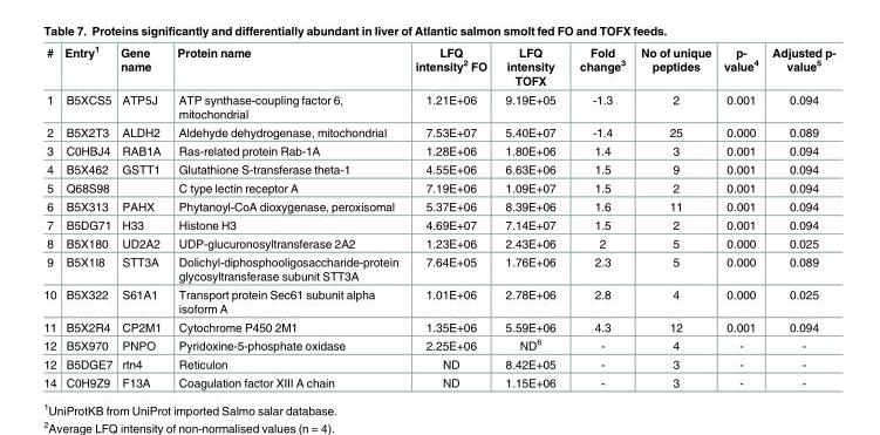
<table><thead><tr><td>#</td><td>Entry<sup>1</sup></td><td>Gene name</td><td>Protein name</td><td>LFQ intensity<sup>2</sup> FO</td><td>LFQ intensity TOFX</td><td>Fold change<sup>3</sup></td><td>No of unique peptides</td><td>p- value<sup>4</sup></td><td>Adjusted p- value<sup>5</sup></td></tr></thead><tbody><tr><td>1</td><td>B5XCS5</td><td>ATP5J</td><td>ATP synthase-coupling factor 6, mitochondrial</td><td>1.21E+06</td><td>9.19E+05</td><td>-1.3</td><td>2</td><td>0.001</td><td>0.094</td></tr><tr><td>2</td><td>B5X2T3</td><td>ALDH2</td><td>Aldehyde dehydrogenase, mitochondrial</td><td>7.53E+07</td><td>5.40E+07</td><td>-1.4</td><td>25</td><td>0.000</td><td>0.089</td></tr><tr><td>3</td><td>C0HBJ4</td><td>RAB1A</td><td>Ras-related protein Rab-1A</td><td>1.28E+06</td><td>1.80E+06</td><td>1.4</td><td>3</td><td>0.001</td><td>0.094</td></tr><tr><td>4</td><td>B5X462</td><td>GSTT1</td><td>Glutathione S-transferase theta-1</td><td>4.55E+06</td><td>6.63E+06</td><td>1.5</td><td>9</td><td>0.001</td><td>0.094</td></tr><tr><td>5</td><td>Q68S98</td><td></td><td>C type lectin receptor A</td><td>7.19E+06</td><td>1.09E+07</td><td>1.5</td><td>2</td><td>0.001</td><td>0.094</td></tr><tr><td>6</td><td>B5X313</td><td>PAHX</td><td>Phytanoyl-CoA dioxygenase, peroxisomal</td><td>5.37E+06</td><td>8.39E+06</td><td>1.6</td><td>11</td><td>0.001</td><td>0.094</td></tr><tr><td>7</td><td>B5DG71</td><td>H33</td><td>Histone H3</td><td>4.69E+07</td><td>7.14E+07</td><td>1.5</td><td>2</td><td>0.001</td><td>0.094</td></tr><tr><td>8</td><td>B5X180</td><td>UD2A2</td><td>UDP-glucuronosyltransferase 2A2</td><td>1.23E+06</td><td>2.43E+06</td><td>2</td><td>5</td><td>0.000</td><td>0.025</td></tr><tr><td>9</td><td>B5X1I8</td><td>STT3A</td><td>Dolichyl-diphosphooligosaccharide-protein glycosyltransferase subunit STT3A</td><td>7.64E+05</td><td>1.76E+06</td><td>2.3</td><td>5</td><td>0.000</td><td>0.089</td></tr><tr><td>10</td><td>B5X322</td><td>S61A1</td><td>Transport protein Sec61 subunit alpha isoform A</td><td>1.01E+06</td><td>2.78E+06</td><td>2.8</td><td>4</td><td>0.000</td><td>0.025</td></tr><tr><td>11</td><td>B5X2R4</td><td>CP2M1</td><td>Cytochrome P450 2M1</td><td>1.35E+06</td><td>5.59E+06</td><td>4.3</td><td>12</td><td>0.001</td><td>0.094</td></tr><tr><td>12</td><td>B5X970</td><td>PNPO</td><td>Pyridoxine-5-phosphate oxidase</td><td>2.25E+06</td><td>ND<sup>6</sup></td><td>-</td><td>4</td><td>-</td><td>-</td></tr><tr><td>12</td><td>B5DGE7</td><td>rtn4</td><td>Reticulon</td><td>ND</td><td>8.42E+05</td><td>-</td><td>3</td><td>-</td><td>-</td></tr><tr><td>14</td><td>C0H9Z9</td><td>F13A</td><td>Coagulation factor XIII A chain</td><td>ND</td><td>1.15E+06</td><td>-</td><td>3</td><td>-</td><td>-</td></tr></tbody></table>